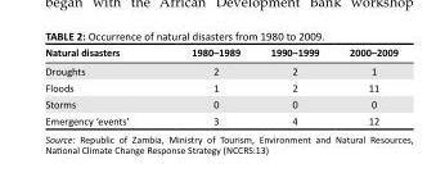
<table><thead><tr><td>Natural disasters</td><td>1980–1989</td><td>1990–1999</td><td>2000–2009</td></tr></thead><tbody><tr><td>Droughts</td><td>2</td><td>2</td><td>1</td></tr><tr><td>Floods</td><td>1</td><td>2</td><td>11</td></tr><tr><td>Storms</td><td>0</td><td>0</td><td>0</td></tr><tr><td>Emergency ‘events’</td><td>3</td><td>4</td><td>12</td></tr></tbody></table>